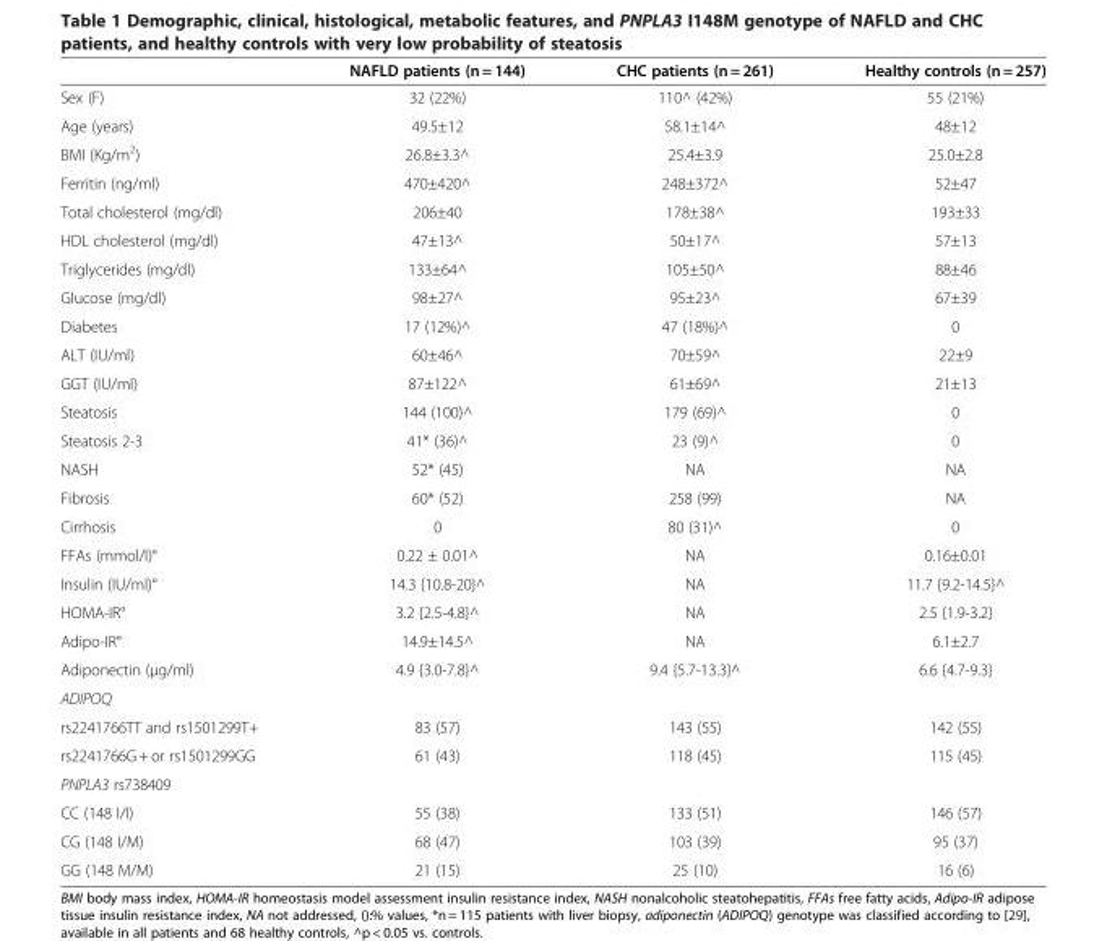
<table><thead><tr><td></td><td>NAFLD patients (n = 144)</td><td>CHC patients (n = 261)</td><td>Healthy controls (n = 257)</td></tr></thead><tbody><tr><td>Sex (F)</td><td>32 (22%)</td><td>110^ (42%)</td><td>55 (21%)</td></tr><tr><td>Age (years)</td><td>49.5±12</td><td>58.1±14^</td><td>48±12</td></tr><tr><td>BMI (Kg/m<sup>2</sup>)</td><td>26.8±3.3^</td><td>25.4±3.9</td><td>25.0±2.8</td></tr><tr><td>Ferritin (ng/ml)</td><td>470±420^</td><td>248±372^</td><td>52±47</td></tr><tr><td>Total cholesterol (mg/dl)</td><td>206±40</td><td>178±38^</td><td>193±33</td></tr><tr><td>HDL cholesterol (mg/dl)</td><td>47±13^</td><td>50±17^</td><td>57±13</td></tr><tr><td>Triglycerides (mg/dl)</td><td>133±64^</td><td>105±50^</td><td>88±46</td></tr><tr><td>Glucose (mg/dl)</td><td>98±27^</td><td>95±23^</td><td>67±39</td></tr><tr><td>Diabetes</td><td>17 (12%)^</td><td>47 (18%)^</td><td>0</td></tr><tr><td>ALT (IU/ml)</td><td>60±46^</td><td>70±59^</td><td>22±9</td></tr><tr><td>GGT (IU/ml)</td><td>87±122^</td><td>61±69^</td><td>21±13</td></tr><tr><td>Steatosis</td><td>144 (100)^</td><td>179 (69)^</td><td>0</td></tr><tr><td>Steatosis 2-3</td><td>41* (36)^</td><td>23 (9)^</td><td>0</td></tr><tr><td>NASH</td><td>52* (45)</td><td>NA</td><td>NA</td></tr><tr><td>Fibrosis</td><td>60* (52)</td><td>258 (99)</td><td>NA</td></tr><tr><td>Cirrhosis</td><td>0</td><td>80 (31)^</td><td>0</td></tr><tr><td>FFAs (mmol/l)°</td><td>0.22 ± 0.01^</td><td>NA</td><td>0.16±0.01</td></tr><tr><td>Insulin (IU/ml)°</td><td>14.3 {10.8-20}^</td><td>NA</td><td>11.7 {9.2-14.5}^</td></tr><tr><td>HOMA-IR°</td><td>3.2 {2.5-4.8}^</td><td>NA</td><td>2.5 {1.9-3.2}</td></tr><tr><td>Adipo-IR°</td><td>14.9±14.5^</td><td>NA</td><td>6.1±2.7</td></tr><tr><td>Adiponectin (μg/ml)</td><td>4.9 {3.0-7.8}^</td><td>9.4 {5.7-13.3}^</td><td>6.6 {4.7-9.3}</td></tr><tr><td colspan="4">ADIPOQ</td></tr><tr><td>rs2241766TT and rs1501299T+</td><td>83 (57)</td><td>143 (55)</td><td>142 (55)</td></tr><tr><td>rs2241766G + or rs1501299GG</td><td>61 (43)</td><td>118 (45)</td><td>115 (45)</td></tr><tr><td colspan="4">PNPLA3 rs738409</td></tr><tr><td>CC (148 I/I)</td><td>55 (38)</td><td>133 (51)</td><td>146 (57)</td></tr><tr><td>CG (148 I/M)</td><td>68 (47)</td><td>103 (39)</td><td>95 (37)</td></tr><tr><td>GG (148 M/M)</td><td>21 (15)</td><td>25 (10)</td><td>16 (6)</td></tr></tbody></table>